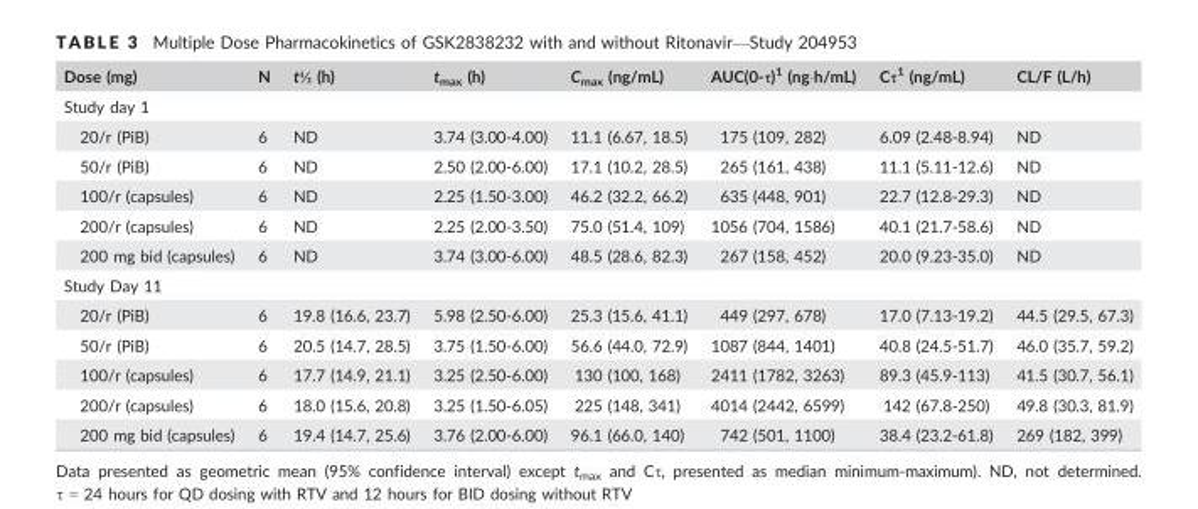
<table><thead><tr><td>Dose (mg)</td><td>N</td><td>t½ (h)</td><td>t<sub>max</sub> (h)</td><td>C<sub>max</sub> (ng/mL)</td><td>AUC(0-τ)<sup>1</sup> (ng·h/mL)</td><td>Cτ<sup>1</sup> (ng/mL)</td><td>CL/F (L/h)</td></tr></thead><tbody><tr><td colspan="8">Study day 1</td></tr><tr><td>20/r (PiB)</td><td>6</td><td>ND</td><td>3.74 (3.00-4.00)</td><td>11.1 (6.67, 18.5)</td><td>175 (109, 282)</td><td>6.09 (2.48-8.94)</td><td>ND</td></tr><tr><td>50/r (PiB)</td><td>6</td><td>ND</td><td>2.50 (2.00-6.00)</td><td>17.1 (10.2, 28.5)</td><td>265 (161, 438)</td><td>11.1 (5.11-12.6)</td><td>ND</td></tr><tr><td>100/r (capsules)</td><td>6</td><td>ND</td><td>2.25 (1.50-3.00)</td><td>46.2 (32.2, 66.2)</td><td>635 (448, 901)</td><td>22.7 (12.8-29.3)</td><td>ND</td></tr><tr><td>200/r (capsules)</td><td>6</td><td>ND</td><td>2.25 (2.00-3.50)</td><td>75.0 (51.4, 109)</td><td>1056 (704, 1586)</td><td>40.1 (21.7-58.6)</td><td>ND</td></tr><tr><td>200 mg bid (capsules)</td><td>6</td><td>ND</td><td>3.74 (3.00-6.00)</td><td>48.5 (28.6, 82.3)</td><td>267 (158, 452)</td><td>20.0 (9.23-35.0)</td><td>ND</td></tr><tr><td colspan="8">Study Day 11</td></tr><tr><td>20/r (PiB)</td><td>6</td><td>19.8 (16.6, 23.7)</td><td>5.98 (2.50-6.00)</td><td>25.3 (15.6, 41.1)</td><td>449 (297, 678)</td><td>17.0 (7.13-19.2)</td><td>44.5 (29.5, 67.3)</td></tr><tr><td>50/r (PiB)</td><td>6</td><td>20.5 (14.7, 28.5)</td><td>3.75 (1.50-6.00)</td><td>56.6 (44.0, 72.9)</td><td>1087 (844, 1401)</td><td>40.8 (24.5-51.7)</td><td>46.0 (35.7, 59.2)</td></tr><tr><td>100/r (capsules)</td><td>6</td><td>17.7 (14.9, 21.1)</td><td>3.25 (2.50-6.00)</td><td>130 (100, 168)</td><td>2411 (1782, 3263)</td><td>89.3 (45.9-113)</td><td>41.5 (30.7, 56.1)</td></tr><tr><td>200/r (capsules)</td><td>6</td><td>18.0 (15.6, 20.8)</td><td>3.25 (1.50-6.05)</td><td>225 (148, 341)</td><td>4014 (2442, 6599)</td><td>142 (67.8-250)</td><td>49.8 (30.3, 81.9)</td></tr><tr><td>200 mg bid (capsules)</td><td>6</td><td>19.4 (14.7, 25.6)</td><td>3.76 (2.00-6.00)</td><td>96.1 (66.0, 140)</td><td>742 (501, 1100)</td><td>38.4 (23.2-61.8)</td><td>269 (182, 399)</td></tr></tbody></table>